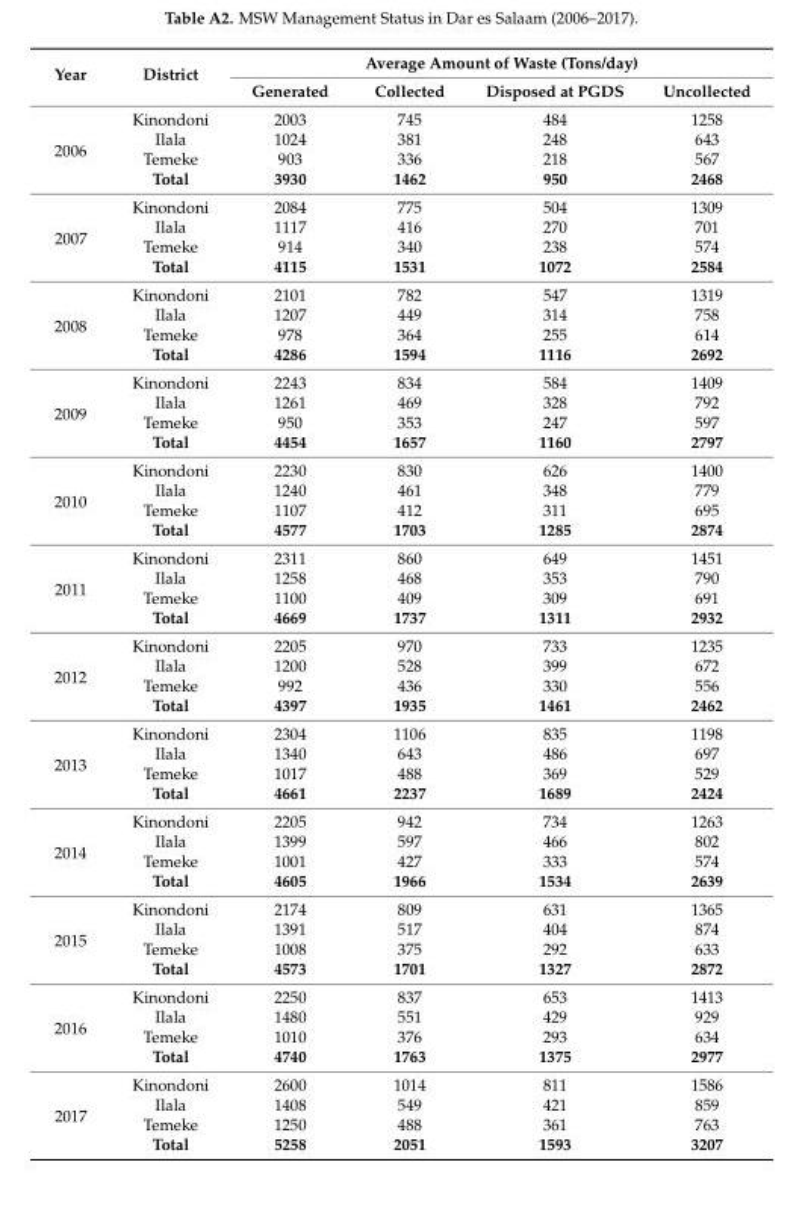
<table><thead><tr><td rowspan="2">Year</td><td rowspan="2">District</td><td colspan="4">Average Amount of Waste (Tons/day)</td></tr><tr><td>Generated</td><td>Collected</td><td>Disposed at PGDS</td><td>Uncollected</td></tr></thead><tbody><tr><td rowspan="4">2006</td><td>Kinondoni</td><td>2003</td><td>745</td><td>484</td><td>1258</td></tr><tr><td>Ilala</td><td>1024</td><td>381</td><td>248</td><td>643</td></tr><tr><td>Temeke</td><td>903</td><td>336</td><td>218</td><td>567</td></tr><tr><td>Total</td><td>3930</td><td>1462</td><td>950</td><td>2468</td></tr><tr><td rowspan="4">2007</td><td>Kinondoni</td><td>2084</td><td>775</td><td>504</td><td>1309</td></tr><tr><td>Ilala</td><td>1117</td><td>416</td><td>270</td><td>701</td></tr><tr><td>Temeke</td><td>914</td><td>340</td><td>238</td><td>574</td></tr><tr><td>Total</td><td>4115</td><td>1531</td><td>1072</td><td>2584</td></tr><tr><td rowspan="4">2008</td><td>Kinondoni</td><td>2101</td><td>782</td><td>547</td><td>1319</td></tr><tr><td>Ilala</td><td>1207</td><td>449</td><td>314</td><td>758</td></tr><tr><td>Temeke</td><td>978</td><td>364</td><td>255</td><td>614</td></tr><tr><td>Total</td><td>4286</td><td>1594</td><td>1116</td><td>2692</td></tr><tr><td rowspan="4">2009</td><td>Kinondoni</td><td>2243</td><td>834</td><td>584</td><td>1409</td></tr><tr><td>Ilala</td><td>1261</td><td>469</td><td>328</td><td>792</td></tr><tr><td>Temeke</td><td>950</td><td>353</td><td>247</td><td>597</td></tr><tr><td>Total</td><td>4454</td><td>1657</td><td>1160</td><td>2797</td></tr><tr><td rowspan="4">2010</td><td>Kinondoni</td><td>2230</td><td>830</td><td>626</td><td>1400</td></tr><tr><td>Ilala</td><td>1240</td><td>461</td><td>348</td><td>779</td></tr><tr><td>Temeke</td><td>1107</td><td>412</td><td>311</td><td>695</td></tr><tr><td>Total</td><td>4577</td><td>1703</td><td>1285</td><td>2874</td></tr><tr><td rowspan="4">2011</td><td>Kinondoni</td><td>2311</td><td>860</td><td>649</td><td>1451</td></tr><tr><td>Ilala</td><td>1258</td><td>468</td><td>353</td><td>790</td></tr><tr><td>Temeke</td><td>1100</td><td>409</td><td>309</td><td>691</td></tr><tr><td>Total</td><td>4669</td><td>1737</td><td>1311</td><td>2932</td></tr><tr><td rowspan="4">2012</td><td>Kinondoni</td><td>2205</td><td>970</td><td>733</td><td>1235</td></tr><tr><td>Ilala</td><td>1200</td><td>528</td><td>399</td><td>672</td></tr><tr><td>Temeke</td><td>992</td><td>436</td><td>330</td><td>556</td></tr><tr><td>Total</td><td>4397</td><td>1935</td><td>1461</td><td>2462</td></tr><tr><td rowspan="4">2013</td><td>Kinondoni</td><td>2304</td><td>1106</td><td>835</td><td>1198</td></tr><tr><td>Ilala</td><td>1340</td><td>643</td><td>486</td><td>697</td></tr><tr><td>Temeke</td><td>1017</td><td>488</td><td>369</td><td>529</td></tr><tr><td>Total</td><td>4661</td><td>2237</td><td>1689</td><td>2424</td></tr><tr><td rowspan="4">2014</td><td>Kinondoni</td><td>2205</td><td>942</td><td>734</td><td>1263</td></tr><tr><td>Ilala</td><td>1399</td><td>597</td><td>466</td><td>802</td></tr><tr><td>Temeke</td><td>1001</td><td>427</td><td>333</td><td>574</td></tr><tr><td>Total</td><td>4605</td><td>1966</td><td>1534</td><td>2639</td></tr><tr><td rowspan="4">2015</td><td>Kinondoni</td><td>2174</td><td>809</td><td>631</td><td>1365</td></tr><tr><td>Ilala</td><td>1391</td><td>517</td><td>404</td><td>874</td></tr><tr><td>Temeke</td><td>1008</td><td>375</td><td>292</td><td>633</td></tr><tr><td>Total</td><td>4573</td><td>1701</td><td>1327</td><td>2872</td></tr><tr><td rowspan="4">2016</td><td>Kinondoni</td><td>2250</td><td>837</td><td>653</td><td>1413</td></tr><tr><td>Ilala</td><td>1480</td><td>551</td><td>429</td><td>929</td></tr><tr><td>Temeke</td><td>1010</td><td>376</td><td>293</td><td>634</td></tr><tr><td>Total</td><td>4740</td><td>1763</td><td>1375</td><td>2977</td></tr><tr><td rowspan="4">2017</td><td>Kinondoni</td><td>2600</td><td>1014</td><td>811</td><td>1586</td></tr><tr><td>Ilala</td><td>1408</td><td>549</td><td>421</td><td>859</td></tr><tr><td>Temeke</td><td>1250</td><td>488</td><td>361</td><td>763</td></tr><tr><td>Total</td><td>5258</td><td>2051</td><td>1593</td><td>3207</td></tr></tbody></table>